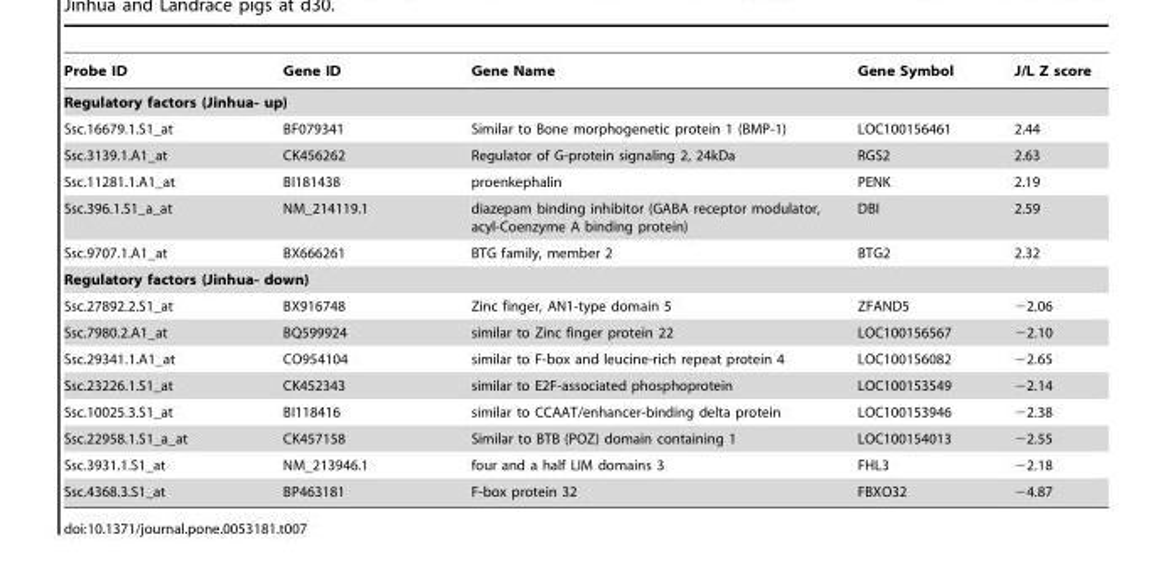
<table><thead><tr><td>Probe ID</td><td>Gene ID</td><td>Gene Name</td><td>Gene Symbol</td><td>J/L Z score</td></tr></thead><tbody><tr><td colspan="5">Regulatory factors (Jinhua- up)</td></tr><tr><td>Ssc.16679.1.S1_at</td><td>BF079341</td><td>Similar to Bone morphogenetic protein 1 (BMP-1)</td><td>LOC100156461</td><td>2.44</td></tr><tr><td>Ssc.3139.1.A1_at</td><td>CK456262</td><td>Regulator of G-protein signaling 2, 24kDa</td><td>RGS2</td><td>2.63</td></tr><tr><td>Ssc.11281.1.A1_at</td><td>BI181438</td><td>proenkephalin</td><td>PENK</td><td>2.19</td></tr><tr><td>Ssc.396.1.S1_a_at</td><td>NM_214119.1</td><td>diazepam binding inhibitor (GABA receptor modulator, acyl-Coenzyme A binding protein)</td><td>DBI</td><td>2.59</td></tr><tr><td>Ssc.9707.1.A1_at</td><td>BX666261</td><td>BTG family, member 2</td><td>BTG2</td><td>2.32</td></tr><tr><td colspan="5">Regulatory factors (Jinhua- down)</td></tr><tr><td>Ssc.27892.2.S1_at</td><td>BX916748</td><td>Zinc finger, AN1-type domain 5</td><td>ZFAND5</td><td>−2.06</td></tr><tr><td>Ssc.7980.2.A1_at</td><td>BQ599924</td><td>similar to Zinc finger protein 22</td><td>LOC100156567</td><td>−2.10</td></tr><tr><td>Ssc.29341.1.A1_at</td><td>CO954104</td><td>similar to F-box and leucine-rich repeat protein 4</td><td>LOC100156082</td><td>−2.65</td></tr><tr><td>Ssc.23226.1.S1_at</td><td>CK452343</td><td>similar to E2F-associated phosphoprotein</td><td>LOC100153549</td><td>−2.14</td></tr><tr><td>Ssc.10025.3.S1_at</td><td>BI118416</td><td>similar to CCAAT/enhancer-binding delta protein</td><td>LOC100153946</td><td>−2.38</td></tr><tr><td>Ssc.22958.1.S1_a_at</td><td>CK457158</td><td>Similar to BTB (POZ) domain containing 1</td><td>LOC100154013</td><td>−2.55</td></tr><tr><td>Ssc.3931.1.S1_at</td><td>NM_213946.1</td><td>four and a half LIM domains 3</td><td>FHL3</td><td>−2.18</td></tr><tr><td>Ssc.4368.3.S1_at</td><td>BP463181</td><td>F-box protein 32</td><td>FBXO32</td><td>−4.87</td></tr></tbody></table>